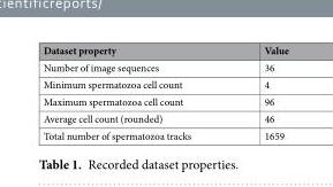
<table><thead><tr><td>Dataset property</td><td>Value</td></tr></thead><tbody><tr><td>Number of image sequences</td><td>36</td></tr><tr><td>Minimum spermatozoa cell count</td><td>4</td></tr><tr><td>Maximum spermatozoa cell count</td><td>96</td></tr><tr><td>Average cell count (rounded)</td><td>46</td></tr><tr><td>Total number of spermatozoa tracks</td><td>1659</td></tr></tbody></table>